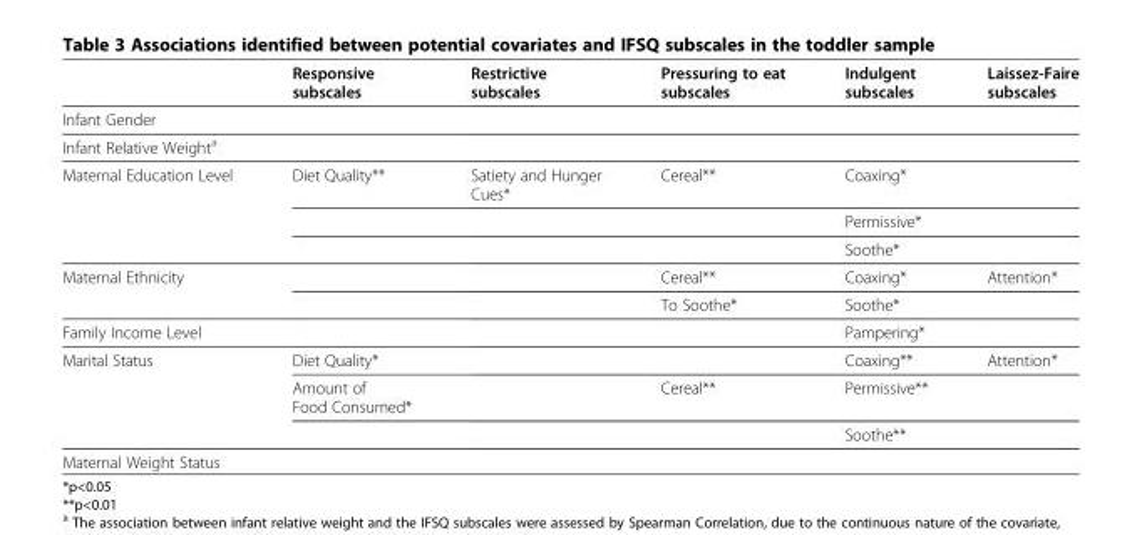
<table><thead><tr><td></td><td>Responsive subscales</td><td>Restrictive subscales</td><td>Pressuring to eat subscales</td><td>Indulgent subscales</td><td>Laissez-Faire subscales</td></tr></thead><tbody><tr><td colspan="6">Infant Gender</td></tr><tr><td colspan="6">Infant Relative Weight<sup>a</sup></td></tr><tr><td rowspan="3">Maternal Education Level</td><td>Diet Quality**</td><td>Satiety and Hunger Cues*</td><td>Cereal**</td><td>Coaxing*</td><td></td></tr><tr><td></td><td></td><td></td><td>Permissive*</td><td></td></tr><tr><td></td><td></td><td></td><td>Soothe*</td><td></td></tr><tr><td rowspan="2">Maternal Ethnicity</td><td></td><td></td><td>Cereal**</td><td>Coaxing*</td><td>Attention*</td></tr><tr><td></td><td></td><td>To Soothe*</td><td>Soothe*</td><td></td></tr><tr><td>Family Income Level</td><td></td><td></td><td></td><td>Pampering*</td><td></td></tr><tr><td rowspan="3">Marital Status</td><td>Diet Quality*</td><td></td><td></td><td>Coaxing**</td><td>Attention*</td></tr><tr><td>Amount of Food Consumed*</td><td></td><td>Cereal**</td><td>Permissive**</td><td></td></tr><tr><td></td><td></td><td></td><td>Soothe**</td><td></td></tr><tr><td>Maternal Weight Status</td><td></td><td></td><td></td><td></td><td></td></tr></tbody></table>